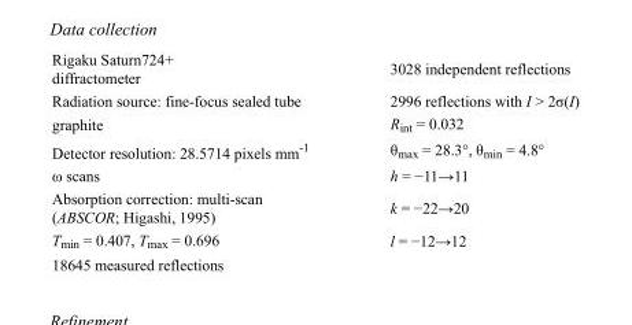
<table><tbody><tr><td>Rigaku Saturn724+ diffractometer</td><td>3028 independent reflections</td></tr><tr><td>Radiation source: fine-focus sealed tube</td><td>2996 reflections with I &gt; 2σ(I)</td></tr><tr><td>graphite</td><td>R<sub>int</sub> = 0.032</td></tr><tr><td>Detector resolution: 28.5714 pixels mm<sup>-1</sup></td><td>θ<sub>max</sub> = 28.3°, θ<sub>min</sub> = 4.8°</td></tr><tr><td>ω scans</td><td>h = −11→11</td></tr><tr><td>Absorption correction: multi-scan (ABSCOR; Higashi, 1995)</td><td>k = −22→20</td></tr><tr><td>T<sub>min</sub> = 0.407, T<sub>max</sub> = 0.696</td><td>l = −12→12</td></tr><tr><td>18645 measured reflections</td><td></td></tr></tbody></table>